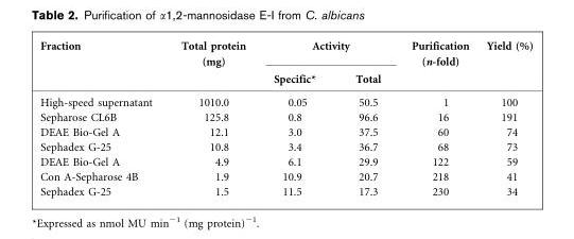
<table><thead><tr><td rowspan="2">Fraction</td><td rowspan="2">Total protein (mg)</td><td colspan="2">Activity</td><td rowspan="2">Purification (n-fold)</td><td rowspan="2">Yield (%)</td></tr><tr><td>Specific*</td><td>Total</td></tr></thead><tbody><tr><td>High-speed supernatant</td><td>1010.0</td><td>0.05</td><td>50.5</td><td>1</td><td>100</td></tr><tr><td>Sepharose CL6B</td><td>125.8</td><td>0.8</td><td>96.6</td><td>16</td><td>191</td></tr><tr><td>DEAE Bio-Gel A</td><td>12.1</td><td>3.0</td><td>37.5</td><td>60</td><td>74</td></tr><tr><td>Sephadex G-25</td><td>10.8</td><td>3.4</td><td>36.7</td><td>68</td><td>73</td></tr><tr><td>DEAE Bio-Gel A</td><td>4.9</td><td>6.1</td><td>29.9</td><td>122</td><td>59</td></tr><tr><td>Con A-Sepharose 4B</td><td>1.9</td><td>10.9</td><td>20.7</td><td>218</td><td>41</td></tr><tr><td>Sephadex G-25</td><td>1.5</td><td>11.5</td><td>17.3</td><td>230</td><td>34</td></tr></tbody></table>